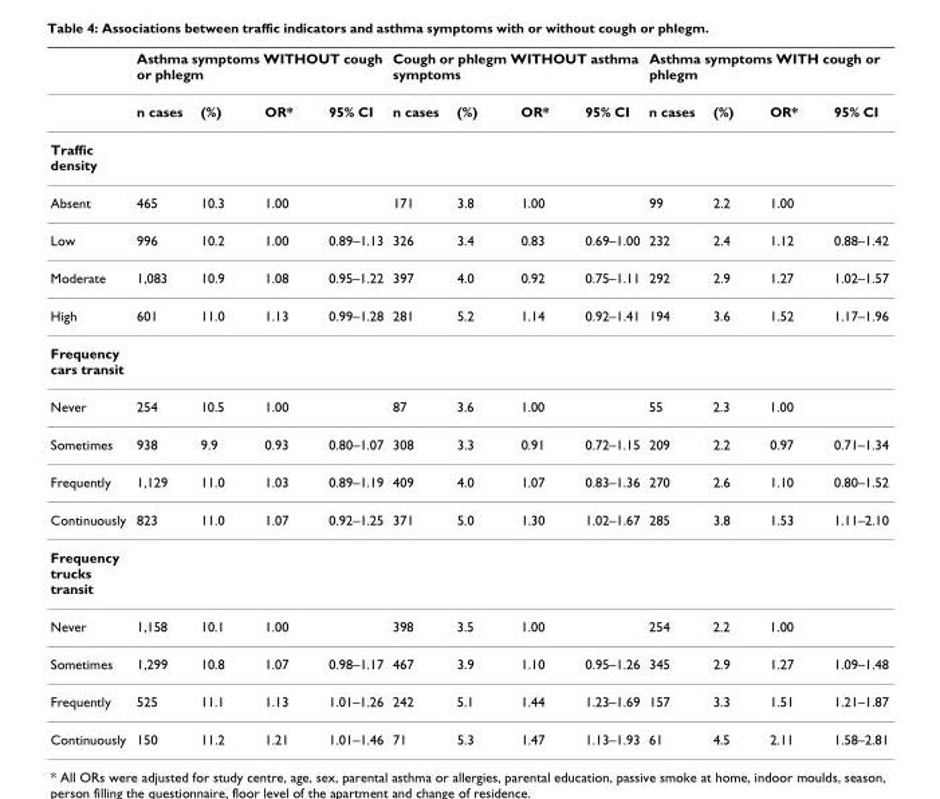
<table><thead><tr><td rowspan="2"></td><td colspan="4">Asthma symptoms WITHOUT cough or phlegm</td><td colspan="4">Cough or phlegm WITHOUT asthma symptoms</td><td colspan="4">Asthma symptoms WITH cough or phlegm</td></tr><tr><td>n cases</td><td>(%)</td><td>OR*</td><td>95% CI</td><td>n cases</td><td>(%)</td><td>OR*</td><td>95% CI</td><td>n cases</td><td>(%)</td><td>OR*</td><td>95% CI</td></tr></thead><tbody><tr><td colspan="13">Traffic density</td></tr><tr><td>Absent</td><td>465</td><td>10.3</td><td>1.00</td><td></td><td>171</td><td>3.8</td><td>1.00</td><td></td><td>99</td><td>2.2</td><td>1.00</td><td></td></tr><tr><td>Low</td><td>996</td><td>10.2</td><td>1.00</td><td>0.89–1.13</td><td>326</td><td>3.4</td><td>0.83</td><td>0.69–1.00</td><td>232</td><td>2.4</td><td>1.12</td><td>0.88–1.42</td></tr><tr><td>Moderate</td><td>1,083</td><td>10.9</td><td>1.08</td><td>0.95–1.22</td><td>397</td><td>4.0</td><td>0.92</td><td>0.75–1.11</td><td>292</td><td>2.9</td><td>1.27</td><td>1.02–1.57</td></tr><tr><td>High</td><td>601</td><td>11.0</td><td>1.13</td><td>0.99–1.28</td><td>281</td><td>5.2</td><td>1.14</td><td>0.92–1.41</td><td>194</td><td>3.6</td><td>1.52</td><td>1.17–1.96</td></tr><tr><td colspan="13">Frequency cars transit</td></tr><tr><td>Never</td><td>254</td><td>10.5</td><td>1.00</td><td></td><td>87</td><td>3.6</td><td>1.00</td><td></td><td>55</td><td>2.3</td><td>1.00</td><td></td></tr><tr><td>Sometimes</td><td>938</td><td>9.9</td><td>0.93</td><td>0.80–1.07</td><td>308</td><td>3.3</td><td>0.91</td><td>0.72–1.15</td><td>209</td><td>2.2</td><td>0.97</td><td>0.71–1.34</td></tr><tr><td>Frequently</td><td>1,129</td><td>11.0</td><td>1.03</td><td>0.89–1.19</td><td>409</td><td>4.0</td><td>1.07</td><td>0.83–1.36</td><td>270</td><td>2.6</td><td>1.10</td><td>0.80–1.52</td></tr><tr><td>Continuously</td><td>823</td><td>11.0</td><td>1.07</td><td>0.92–1.25</td><td>371</td><td>5.0</td><td>1.30</td><td>1.02–1.67</td><td>285</td><td>3.8</td><td>1.53</td><td>1.11–2.10</td></tr><tr><td colspan="13">Frequency trucks transit</td></tr><tr><td>Never</td><td>1,158</td><td>10.1</td><td>1.00</td><td></td><td>398</td><td>3.5</td><td>1.00</td><td></td><td>254</td><td>2.2</td><td>1.00</td><td></td></tr><tr><td>Sometimes</td><td>1,299</td><td>10.8</td><td>1.07</td><td>0.98–1.17</td><td>467</td><td>3.9</td><td>1.10</td><td>0.95–1.26</td><td>345</td><td>2.9</td><td>1.27</td><td>1.09–1.48</td></tr><tr><td>Frequently</td><td>525</td><td>11.1</td><td>1.13</td><td>1.01–1.26</td><td>242</td><td>5.1</td><td>1.44</td><td>1.23–1.69</td><td>157</td><td>3.3</td><td>1.51</td><td>1.21–1.87</td></tr><tr><td>Continuously</td><td>150</td><td>11.2</td><td>1.21</td><td>1.01–1.46</td><td>71</td><td>5.3</td><td>1.47</td><td>1.13–1.93</td><td>61</td><td>4.5</td><td>2.11</td><td>1.58–2.81</td></tr></tbody></table>